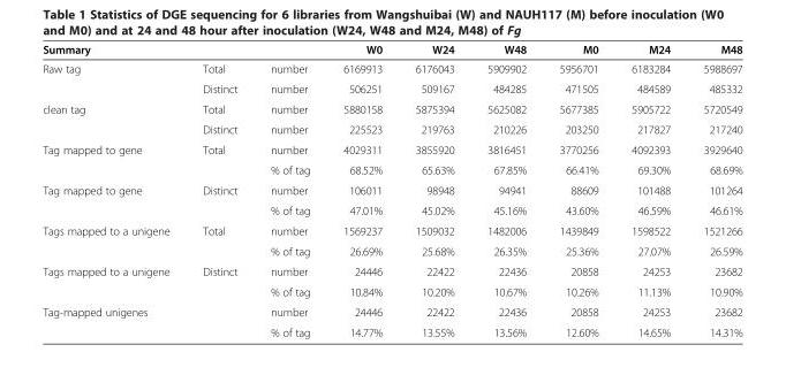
<table><thead><tr><td>Summary</td><td></td><td></td><td>W0</td><td>W24</td><td>W48</td><td>M0</td><td>M24</td><td>M48</td></tr></thead><tbody><tr><td rowspan="2">Raw tag</td><td>Total</td><td>number</td><td>6169913</td><td>6176043</td><td>5909902</td><td>5956701</td><td>6183284</td><td>5988697</td></tr><tr><td>Distinct</td><td>number</td><td>506251</td><td>509167</td><td>484285</td><td>471505</td><td>484589</td><td>485332</td></tr><tr><td rowspan="2">clean tag</td><td>Total</td><td>number</td><td>5880158</td><td>5875394</td><td>5625082</td><td>5677385</td><td>5905722</td><td>5720549</td></tr><tr><td>Distinct</td><td>number</td><td>225523</td><td>219763</td><td>210226</td><td>203250</td><td>217827</td><td>217240</td></tr><tr><td rowspan="2">Tag mapped to gene</td><td>Total</td><td>number</td><td>4029311</td><td>3855920</td><td>3816451</td><td>3770256</td><td>4092393</td><td>3929640</td></tr><tr><td></td><td>% of tag</td><td>68.52%</td><td>65.63%</td><td>67.85%</td><td>66.41%</td><td>69.30%</td><td>68.69%</td></tr><tr><td rowspan="2">Tag mapped to gene</td><td>Distinct</td><td>number</td><td>106011</td><td>98948</td><td>94941</td><td>88609</td><td>101488</td><td>101264</td></tr><tr><td></td><td>% of tag</td><td>47.01%</td><td>45.02%</td><td>45.16%</td><td>43.60%</td><td>46.59%</td><td>46.61%</td></tr><tr><td rowspan="2">Tags mapped to a unigene</td><td>Total</td><td>number</td><td>1569237</td><td>1509032</td><td>1482006</td><td>1439849</td><td>1598522</td><td>1521266</td></tr><tr><td></td><td>% of tag</td><td>26.69%</td><td>25.68%</td><td>26.35%</td><td>25.36%</td><td>27.07%</td><td>26.59%</td></tr><tr><td rowspan="2">Tags mapped to a unigene</td><td>Distinct</td><td>number</td><td>24446</td><td>22422</td><td>22436</td><td>20858</td><td>24253</td><td>23682</td></tr><tr><td></td><td>% of tag</td><td>10.84%</td><td>10.20%</td><td>10.67%</td><td>10.26%</td><td>11.13%</td><td>10.90%</td></tr><tr><td rowspan="2">Tag-mapped unigenes</td><td></td><td>number</td><td>24446</td><td>22422</td><td>22436</td><td>20858</td><td>24253</td><td>23682</td></tr><tr><td></td><td>% of tag</td><td>14.77%</td><td>13.55%</td><td>13.56%</td><td>12.60%</td><td>14.65%</td><td>14.31%</td></tr></tbody></table>